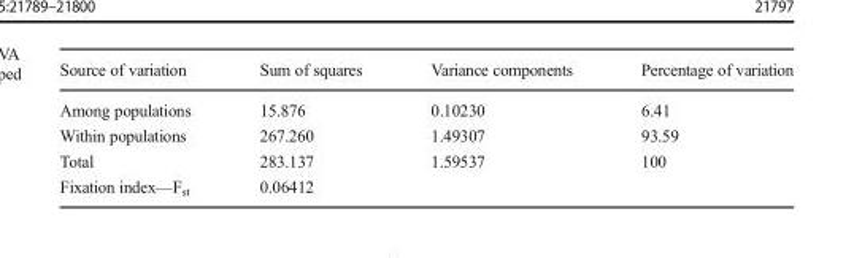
<table><thead><tr><td>Source of variation</td><td>Sum of squares</td><td>Variance components</td><td>Percentage of variation</td></tr></thead><tbody><tr><td>Among populations</td><td>15.876</td><td>0.10230</td><td>6.41</td></tr><tr><td>Within populations</td><td>267.260</td><td>1.49307</td><td>93.59</td></tr><tr><td>Total</td><td>283.137</td><td>1.59537</td><td>100</td></tr><tr><td>Fixation index—F<sub>st</sub></td><td>0.06412</td><td></td><td></td></tr></tbody></table>